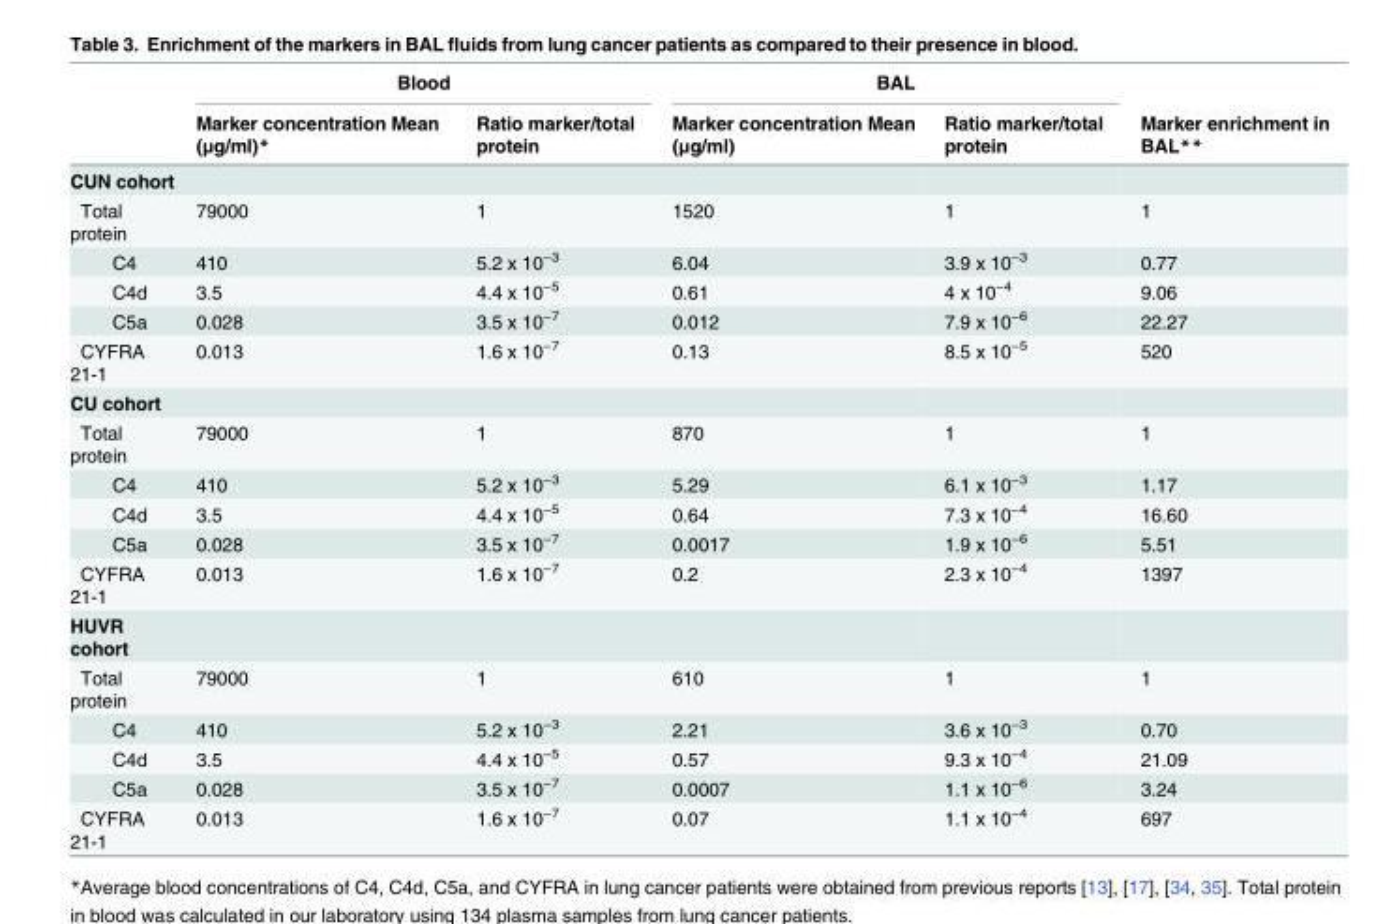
<table><thead><tr><td rowspan="2"></td><td colspan="2">Blood</td><td colspan="2">BAL</td><td rowspan="2">Marker enrichment in BAL**</td></tr><tr><td>Marker concentration Mean (μg/ml)*</td><td>Ratio marker/total protein</td><td>Marker concentration Mean (μg/ml)</td><td>Ratio marker/total protein</td></tr></thead><tbody><tr><td colspan="6">CUN cohort</td></tr><tr><td>Total protein</td><td>79000</td><td>1</td><td>1520</td><td>1</td><td>1</td></tr><tr><td>C4</td><td>410</td><td>5.2 x 10<sup>−3</sup></td><td>6.04</td><td>3.9 x 10<sup>−3</sup></td><td>0.77</td></tr><tr><td>C4d</td><td>3.5</td><td>4.4 x 10<sup>−5</sup></td><td>0.61</td><td>4 x 10<sup>−4</sup></td><td>9.06</td></tr><tr><td>C5a</td><td>0.028</td><td>3.5 x 10<sup>−7</sup></td><td>0.012</td><td>7.9 x 10<sup>−6</sup></td><td>22.27</td></tr><tr><td>CYFRA 21-1</td><td>0.013</td><td>1.6 x 10<sup>−7</sup></td><td>0.13</td><td>8.5 x 10<sup>−5</sup></td><td>520</td></tr><tr><td colspan="6">CU cohort</td></tr><tr><td>Total protein</td><td>79000</td><td>1</td><td>870</td><td>1</td><td>1</td></tr><tr><td>C4</td><td>410</td><td>5.2 x 10<sup>−3</sup></td><td>5.29</td><td>6.1 x 10<sup>−3</sup></td><td>1.17</td></tr><tr><td>C4d</td><td>3.5</td><td>4.4 x 10<sup>−5</sup></td><td>0.64</td><td>7.3 x 10<sup>−4</sup></td><td>16.60</td></tr><tr><td>C5a</td><td>0.028</td><td>3.5 x 10<sup>−7</sup></td><td>0.0017</td><td>1.9 x 10<sup>−6</sup></td><td>5.51</td></tr><tr><td>CYFRA 21-1</td><td>0.013</td><td>1.6 x 10<sup>−7</sup></td><td>0.2</td><td>2.3 x 10<sup>−4</sup></td><td>1397</td></tr><tr><td colspan="6">HUVR cohort</td></tr><tr><td>Total protein</td><td>79000</td><td>1</td><td>610</td><td>1</td><td>1</td></tr><tr><td>C4</td><td>410</td><td>5.2 x 10<sup>−3</sup></td><td>2.21</td><td>3.6 x 10<sup>−3</sup></td><td>0.70</td></tr><tr><td>C4d</td><td>3.5</td><td>4.4 x 10<sup>−5</sup></td><td>0.57</td><td>9.3 x 10<sup>−4</sup></td><td>21.09</td></tr><tr><td>C5a</td><td>0.028</td><td>3.5 x 10<sup>−7</sup></td><td>0.0007</td><td>1.1 x 10<sup>−6</sup></td><td>3.24</td></tr><tr><td>CYFRA 21-1</td><td>0.013</td><td>1.6 x 10<sup>−7</sup></td><td>0.07</td><td>1.1 x 10<sup>−4</sup></td><td>697</td></tr></tbody></table>